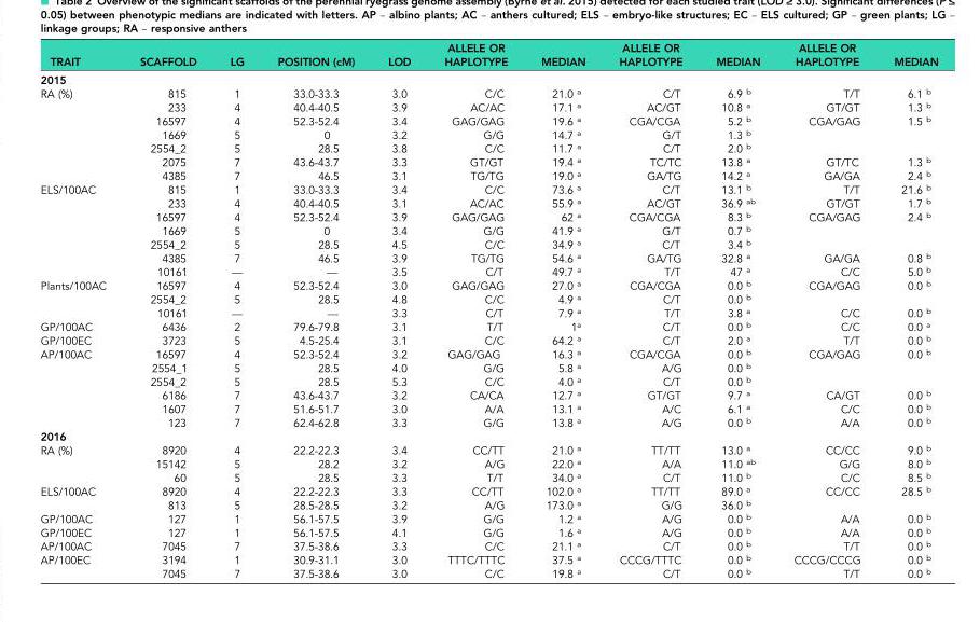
<table><thead><tr><td>TRAIT</td><td>SCAFFOLD</td><td>LG</td><td>POSITION (cM)</td><td>LOD</td><td>ALLELE OR HAPLOTYPE</td><td>MEDIAN</td><td>ALLELE OR HAPLOTYPE</td><td>MEDIAN</td><td>ALLELE OR HAPLOTYPE</td><td>MEDIAN</td></tr></thead><tbody><tr><td colspan="11">2015</td></tr><tr><td rowspan="7">RA (%)</td><td>815</td><td>1</td><td>33.0-33.3</td><td>3.0</td><td>C/C</td><td>21.0 <sup>a</sup></td><td>C/T</td><td>6.9 <sup>b</sup></td><td>T/T</td><td>6.1 <sup>b</sup></td></tr><tr><td>233</td><td>4</td><td>40.4-40.5</td><td>3.9</td><td>AC/AC</td><td>17.1 <sup>a</sup></td><td>AC/GT</td><td>10.8 <sup>a</sup></td><td>GT/GT</td><td>1.3 <sup>b</sup></td></tr><tr><td>16597</td><td>4</td><td>52.3-52.4</td><td>3.4</td><td>GAG/GAG</td><td>19.6 <sup>a</sup></td><td>CGA/CGA</td><td>5.2 <sup>b</sup></td><td>CGA/GAG</td><td>1.5 <sup>b</sup></td></tr><tr><td>1669</td><td>5</td><td>0</td><td>3.2</td><td>G/G</td><td>14.7 <sup>a</sup></td><td>G/T</td><td>1.3 <sup>b</sup></td><td></td><td></td></tr><tr><td>2554_2</td><td>5</td><td>28.5</td><td>3.8</td><td>C/C</td><td>11.7 <sup>a</sup></td><td>C/T</td><td>2.0 <sup>b</sup></td><td></td><td></td></tr><tr><td>2075</td><td>7</td><td>43.6-43.7</td><td>3.3</td><td>GT/GT</td><td>19.4 <sup>a</sup></td><td>TC/TC</td><td>13.8 <sup>a</sup></td><td>GT/TC</td><td>1.3 <sup>b</sup></td></tr><tr><td>4385</td><td>7</td><td>46.5</td><td>3.1</td><td>TG/TG</td><td>19.0 <sup>a</sup></td><td>GA/TG</td><td>14.2 <sup>a</sup></td><td>GA/GA</td><td>2.4 <sup>b</sup></td></tr><tr><td rowspan="7">ELS/100AC</td><td>815</td><td>1</td><td>33.0-33.3</td><td>3.4</td><td>C/C</td><td>73.6 <sup>a</sup></td><td>C/T</td><td>13.1 <sup>b</sup></td><td>T/T</td><td>21.6 <sup>b</sup></td></tr><tr><td>233</td><td>4</td><td>40.4-40.5</td><td>3.1</td><td>AC/AC</td><td>55.9 <sup>a</sup></td><td>AC/GT</td><td>36.9 <sup>ab</sup></td><td>GT/GT</td><td>1.7 <sup>b</sup></td></tr><tr><td>16597</td><td>4</td><td>52.3-52.4</td><td>3.9</td><td>GAG/GAG</td><td>62 <sup>a</sup></td><td>CGA/CGA</td><td>8.3 <sup>b</sup></td><td>CGA/GAG</td><td>2.4 <sup>b</sup></td></tr><tr><td>1669</td><td>5</td><td>0</td><td>3.4</td><td>G/G</td><td>41.9 <sup>a</sup></td><td>G/T</td><td>0.7 <sup>b</sup></td><td></td><td></td></tr><tr><td>2554_2</td><td>5</td><td>28.5</td><td>4.5</td><td>C/C</td><td>34.9 <sup>a</sup></td><td>C/T</td><td>3.4 <sup>b</sup></td><td></td><td></td></tr><tr><td>4385</td><td>7</td><td>46.5</td><td>3.9</td><td>TG/TG</td><td>54.6 <sup>a</sup></td><td>GA/TG</td><td>32.8 <sup>a</sup></td><td>GA/GA</td><td>0.8 <sup>b</sup></td></tr><tr><td>10161</td><td>—</td><td>—</td><td>3.5</td><td>C/T</td><td>49.7 <sup>a</sup></td><td>T/T</td><td>47 <sup>a</sup></td><td>C/C</td><td>5.0 <sup>b</sup></td></tr><tr><td rowspan="3">Plants/100AC</td><td>16597</td><td>4</td><td>52.3-52.4</td><td>3.0</td><td>GAG/GAG</td><td>27.0 <sup>a</sup></td><td>CGA/CGA</td><td>0.0 <sup>b</sup></td><td>CGA/GAG</td><td>0.0 <sup>b</sup></td></tr><tr><td>2554_2</td><td>5</td><td>28.5</td><td>4.8</td><td>C/C</td><td>4.9 <sup>a</sup></td><td>C/T</td><td>0.0 <sup>b</sup></td><td></td><td></td></tr><tr><td>10161</td><td>—</td><td>—</td><td>3.3</td><td>C/T</td><td>7.9 <sup>a</sup></td><td>T/T</td><td>3.8 <sup>a</sup></td><td>C/C</td><td>0.0 <sup>b</sup></td></tr><tr><td>GP/100AC</td><td>6436</td><td>2</td><td>79.6-79.8</td><td>3.1</td><td>T/T</td><td>1<sup>a</sup></td><td>C/T</td><td>0.0 <sup>b</sup></td><td>C/C</td><td>0.0 <sup>a</sup></td></tr><tr><td>GP/100EC</td><td>3723</td><td>5</td><td>4.5-25.4</td><td>3.1</td><td>C/C</td><td>64.2 <sup>a</sup></td><td>C/T</td><td>2.0 <sup>a</sup></td><td>T/T</td><td>0.0 <sup>b</sup></td></tr><tr><td rowspan="6">AP/100AC</td><td>16597</td><td>4</td><td>52.3-52.4</td><td>3.2</td><td>GAG/GAG</td><td>16.3 <sup>a</sup></td><td>CGA/CGA</td><td>0.0 <sup>b</sup></td><td>CGA/GAG</td><td>0.0 <sup>b</sup></td></tr><tr><td>2554_1</td><td>5</td><td>28.5</td><td>4.0</td><td>G/G</td><td>5.8 <sup>a</sup></td><td>A/G</td><td>0.0 <sup>b</sup></td><td></td><td></td></tr><tr><td>2554_2</td><td>5</td><td>28.5</td><td>5.3</td><td>C/C</td><td>4.0 <sup>a</sup></td><td>C/T</td><td>0.0 <sup>b</sup></td><td></td><td></td></tr><tr><td>6186</td><td>7</td><td>43.6-43.7</td><td>3.2</td><td>CA/CA</td><td>12.7 <sup>a</sup></td><td>GT/GT</td><td>9.7 <sup>a</sup></td><td>CA/GT</td><td>0.0 <sup>b</sup></td></tr><tr><td>1607</td><td>7</td><td>51.6-51.7</td><td>3.0</td><td>A/A</td><td>13.1 <sup>a</sup></td><td>A/C</td><td>6.1 <sup>a</sup></td><td>C/C</td><td>0.0 <sup>b</sup></td></tr><tr><td>123</td><td>7</td><td>62.4-62.8</td><td>3.3</td><td>G/G</td><td>13.8 <sup>a</sup></td><td>A/G</td><td>0.0 <sup>b</sup></td><td>A/A</td><td>0.0 <sup>b</sup></td></tr><tr><td colspan="11">2016</td></tr><tr><td rowspan="3">RA (%)</td><td>8920</td><td>4</td><td>22.2-22.3</td><td>3.4</td><td>CC/TT</td><td>21.0 <sup>a</sup></td><td>TT/TT</td><td>13.0 <sup>a</sup></td><td>CC/CC</td><td>9.0 <sup>b</sup></td></tr><tr><td>15142</td><td>5</td><td>28.2</td><td>3.2</td><td>A/G</td><td>22.0 <sup>a</sup></td><td>A/A</td><td>11.0 <sup>ab</sup></td><td>G/G</td><td>8.0 <sup>b</sup></td></tr><tr><td>60</td><td>5</td><td>28.5</td><td>3.3</td><td>T/T</td><td>34.0 <sup>a</sup></td><td>C/T</td><td>11.0 <sup>b</sup></td><td>C/C</td><td>8.5 <sup>b</sup></td></tr><tr><td rowspan="2">ELS/100AC</td><td>8920</td><td>4</td><td>22.2-22.3</td><td>3.3</td><td>CC/TT</td><td>102.0 <sup>a</sup></td><td>TT/TT</td><td>89.0 <sup>a</sup></td><td>CC/CC</td><td>28.5 <sup>b</sup></td></tr><tr><td>813</td><td>5</td><td>28.5-28.5</td><td>3.2</td><td>A/G</td><td>173.0 <sup>a</sup></td><td>G/G</td><td>36.0 <sup>b</sup></td><td></td><td></td></tr><tr><td>GP/100AC</td><td>127</td><td>1</td><td>56.1-57.5</td><td>3.9</td><td>G/G</td><td>1.2 <sup>a</sup></td><td>A/G</td><td>0.0 <sup>b</sup></td><td>A/A</td><td>0.0 <sup>b</sup></td></tr><tr><td>GP/100EC</td><td>127</td><td>1</td><td>56.1-57.5</td><td>4.1</td><td>G/G</td><td>1.6 <sup>a</sup></td><td>A/G</td><td>0.0 <sup>b</sup></td><td>A/A</td><td>0.0 <sup>b</sup></td></tr><tr><td>AP/100AC</td><td>7045</td><td>7</td><td>37.5-38.6</td><td>3.3</td><td>C/C</td><td>21.1 <sup>a</sup></td><td>C/T</td><td>0.0 <sup>b</sup></td><td>T/T</td><td>0.0 <sup>b</sup></td></tr><tr><td rowspan="2">AP/100EC</td><td>3194</td><td>1</td><td>30.9-31.1</td><td>3.0</td><td>TTTC/TTTC</td><td>37.5 <sup>a</sup></td><td>CCCG/TTTC</td><td>0.0 <sup>b</sup></td><td>CCCG/CCCG</td><td>0.0 <sup>b</sup></td></tr><tr><td>7045</td><td>7</td><td>37.5-38.6</td><td>3.0</td><td>C/C</td><td>19.8 <sup>a</sup></td><td>C/T</td><td>0.0 <sup>b</sup></td><td>T/T</td><td>0.0 <sup>b</sup></td></tr></tbody></table>